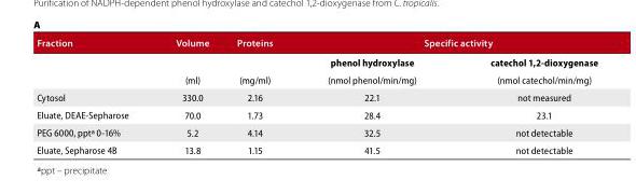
<table><thead><tr><td rowspan="3">Fraction</td><td rowspan="3">Volume (ml)</td><td rowspan="3">Proteins (mg/ml)</td><td colspan="2">Specific activity</td></tr><tr><td rowspan="2">phenol hydroxylase (nmol phenol/min/mg)</td><td rowspan="2">catechol 1,2-dioxygenase (nmol catechol/min/mg)</td></tr><tr></tr></thead><tbody><tr><td>Cytosol</td><td>330.0</td><td>2.16</td><td>22.1</td><td>not measured</td></tr><tr><td>Eluate, DEAE-Sepharose</td><td>70.0</td><td>1.73</td><td>28.4</td><td>23.1</td></tr><tr><td>PEG 6000, ppt<sup>a</sup> 0-16%</td><td>5.2</td><td>4.14</td><td>32.5</td><td>not detectable</td></tr><tr><td>Eluate, Sepharose 4B</td><td>13.8</td><td>1.15</td><td>41.5</td><td>not detectable</td></tr></tbody></table>